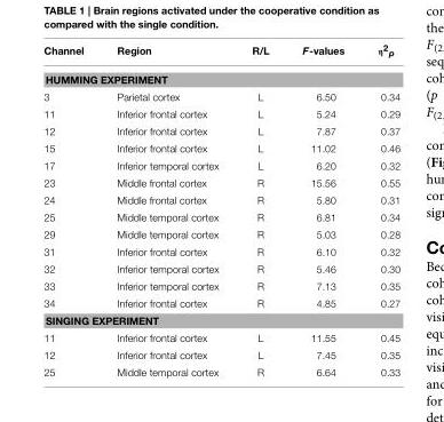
<table><thead><tr><td>Channel</td><td>Region</td><td>R/L</td><td>F-values</td><td>η2p</td></tr></thead><tbody><tr><td colspan="5">HUMMING EXPERIMENT</td></tr><tr><td>3</td><td>Parietal cortex</td><td>L</td><td>6.50</td><td>0.34</td></tr><tr><td>11</td><td>Inferior frontal cortex</td><td>L</td><td>5.24</td><td>0.29</td></tr><tr><td>12</td><td>Inferior frontal cortex</td><td>L</td><td>7.87</td><td>0.37</td></tr><tr><td>15</td><td>Inferior frontal cortex</td><td>L</td><td>11.02</td><td>0.46</td></tr><tr><td>17</td><td>Inferior temporal cortex</td><td>L</td><td>6.20</td><td>0.32</td></tr><tr><td>23</td><td>Middle frontal cortex</td><td>R</td><td>15.56</td><td>0.55</td></tr><tr><td>24</td><td>Middle frontal cortex</td><td>R</td><td>5.80</td><td>0.31</td></tr><tr><td>25</td><td>Middle temporal cortex</td><td>R</td><td>6.81</td><td>0.34</td></tr><tr><td>29</td><td>Middle temporal cortex</td><td>R</td><td>5.03</td><td>0.28</td></tr><tr><td>31</td><td>Inferior frontal cortex</td><td>R</td><td>6.10</td><td>0.32</td></tr><tr><td>32</td><td>Inferior temporal cortex</td><td>R</td><td>5.46</td><td>0.30</td></tr><tr><td>33</td><td>Inferior temporal cortex</td><td>R</td><td>7.13</td><td>0.35</td></tr><tr><td>34</td><td>Inferior frontal cortex</td><td>R</td><td>4.85</td><td>0.27</td></tr><tr><td colspan="5">SINGING EXPERIMENT</td></tr><tr><td>11</td><td>Inferior frontal cortex</td><td>L</td><td>11.55</td><td>0.45</td></tr><tr><td>12</td><td>Inferior frontal cortex</td><td>L</td><td>7.45</td><td>0.35</td></tr><tr><td>25</td><td>Middle temporal cortex</td><td>R</td><td>6.64</td><td>0.33</td></tr></tbody></table>